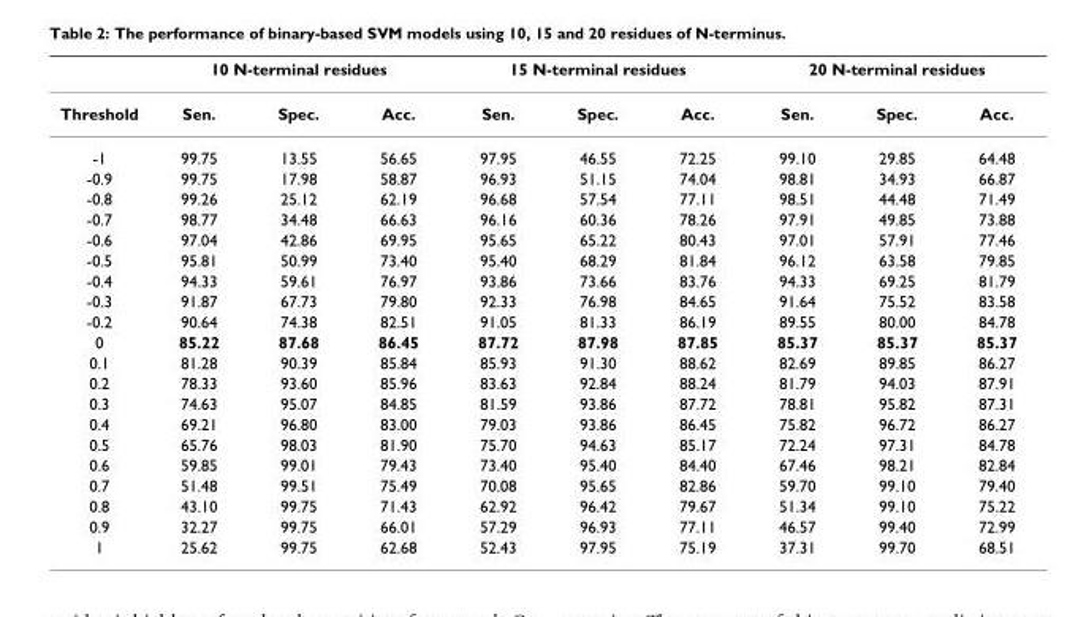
<table><thead><tr><td rowspan="2">Threshold</td><td colspan="3">10 N-terminal residues</td><td colspan="3">15 N-terminal residues</td><td colspan="3">20 N-terminal residues</td></tr><tr><td>Sen.</td><td>Spec.</td><td>Acc.</td><td>Sen.</td><td>Spec.</td><td>Acc.</td><td>Sen.</td><td>Spec.</td><td>Acc.</td></tr></thead><tbody><tr><td>-1</td><td>99.75</td><td>13.55</td><td>56.65</td><td>97.95</td><td>46.55</td><td>72.25</td><td>99.10</td><td>29.85</td><td>64.48</td></tr><tr><td>-0.9</td><td>99.75</td><td>17.98</td><td>58.87</td><td>96.93</td><td>51.15</td><td>74.04</td><td>98.81</td><td>34.93</td><td>66.87</td></tr><tr><td>-0.8</td><td>99.26</td><td>25.12</td><td>62.19</td><td>96.68</td><td>57.54</td><td>77.11</td><td>98.51</td><td>44.48</td><td>71.49</td></tr><tr><td>-0.7</td><td>98.77</td><td>34.48</td><td>66.63</td><td>96.16</td><td>60.36</td><td>78.26</td><td>97.91</td><td>49.85</td><td>73.88</td></tr><tr><td>-0.6</td><td>97.04</td><td>42.86</td><td>69.95</td><td>95.65</td><td>65.22</td><td>80.43</td><td>97.01</td><td>57.91</td><td>77.46</td></tr><tr><td>-0.5</td><td>95.81</td><td>50.99</td><td>73.40</td><td>95.40</td><td>68.29</td><td>81.84</td><td>96.12</td><td>63.58</td><td>79.85</td></tr><tr><td>-0.4</td><td>94.33</td><td>59.61</td><td>76.97</td><td>93.86</td><td>73.66</td><td>83.76</td><td>94.33</td><td>69.25</td><td>81.79</td></tr><tr><td>-0.3</td><td>91.87</td><td>67.73</td><td>79.80</td><td>92.33</td><td>76.98</td><td>84.65</td><td>91.64</td><td>75.52</td><td>83.58</td></tr><tr><td>-0.2</td><td>90.64</td><td>74.38</td><td>82.51</td><td>91.05</td><td>81.33</td><td>86.19</td><td>89.55</td><td>80.00</td><td>84.78</td></tr><tr><td>0</td><td>85.22</td><td>87.68</td><td>86.45</td><td>87.72</td><td>87.98</td><td>87.85</td><td>85.37</td><td>85.37</td><td>85.37</td></tr><tr><td>0.1</td><td>81.28</td><td>90.39</td><td>85.84</td><td>85.93</td><td>91.30</td><td>88.62</td><td>82.69</td><td>89.85</td><td>86.27</td></tr><tr><td>0.2</td><td>78.33</td><td>93.60</td><td>85.96</td><td>83.63</td><td>92.84</td><td>88.24</td><td>81.79</td><td>94.03</td><td>87.91</td></tr><tr><td>0.3</td><td>74.63</td><td>95.07</td><td>84.85</td><td>81.59</td><td>93.86</td><td>87.72</td><td>78.81</td><td>95.82</td><td>87.31</td></tr><tr><td>0.4</td><td>69.21</td><td>96.80</td><td>83.00</td><td>79.03</td><td>93.86</td><td>86.45</td><td>75.82</td><td>96.72</td><td>86.27</td></tr><tr><td>0.5</td><td>65.76</td><td>98.03</td><td>81.90</td><td>75.70</td><td>94.63</td><td>85.17</td><td>72.24</td><td>97.31</td><td>84.78</td></tr><tr><td>0.6</td><td>59.85</td><td>99.01</td><td>79.43</td><td>73.40</td><td>95.40</td><td>84.40</td><td>67.46</td><td>98.21</td><td>82.84</td></tr><tr><td>0.7</td><td>51.48</td><td>99.51</td><td>75.49</td><td>70.08</td><td>95.65</td><td>82.86</td><td>59.70</td><td>99.10</td><td>79.40</td></tr><tr><td>0.8</td><td>43.10</td><td>99.75</td><td>71.43</td><td>62.92</td><td>96.42</td><td>79.67</td><td>51.34</td><td>99.10</td><td>75.22</td></tr><tr><td>0.9</td><td>32.27</td><td>99.75</td><td>66.01</td><td>57.29</td><td>96.93</td><td>77.11</td><td>46.57</td><td>99.40</td><td>72.99</td></tr><tr><td>1</td><td>25.62</td><td>99.75</td><td>62.68</td><td>52.43</td><td>97.95</td><td>75.19</td><td>37.31</td><td>99.70</td><td>68.51</td></tr></tbody></table>